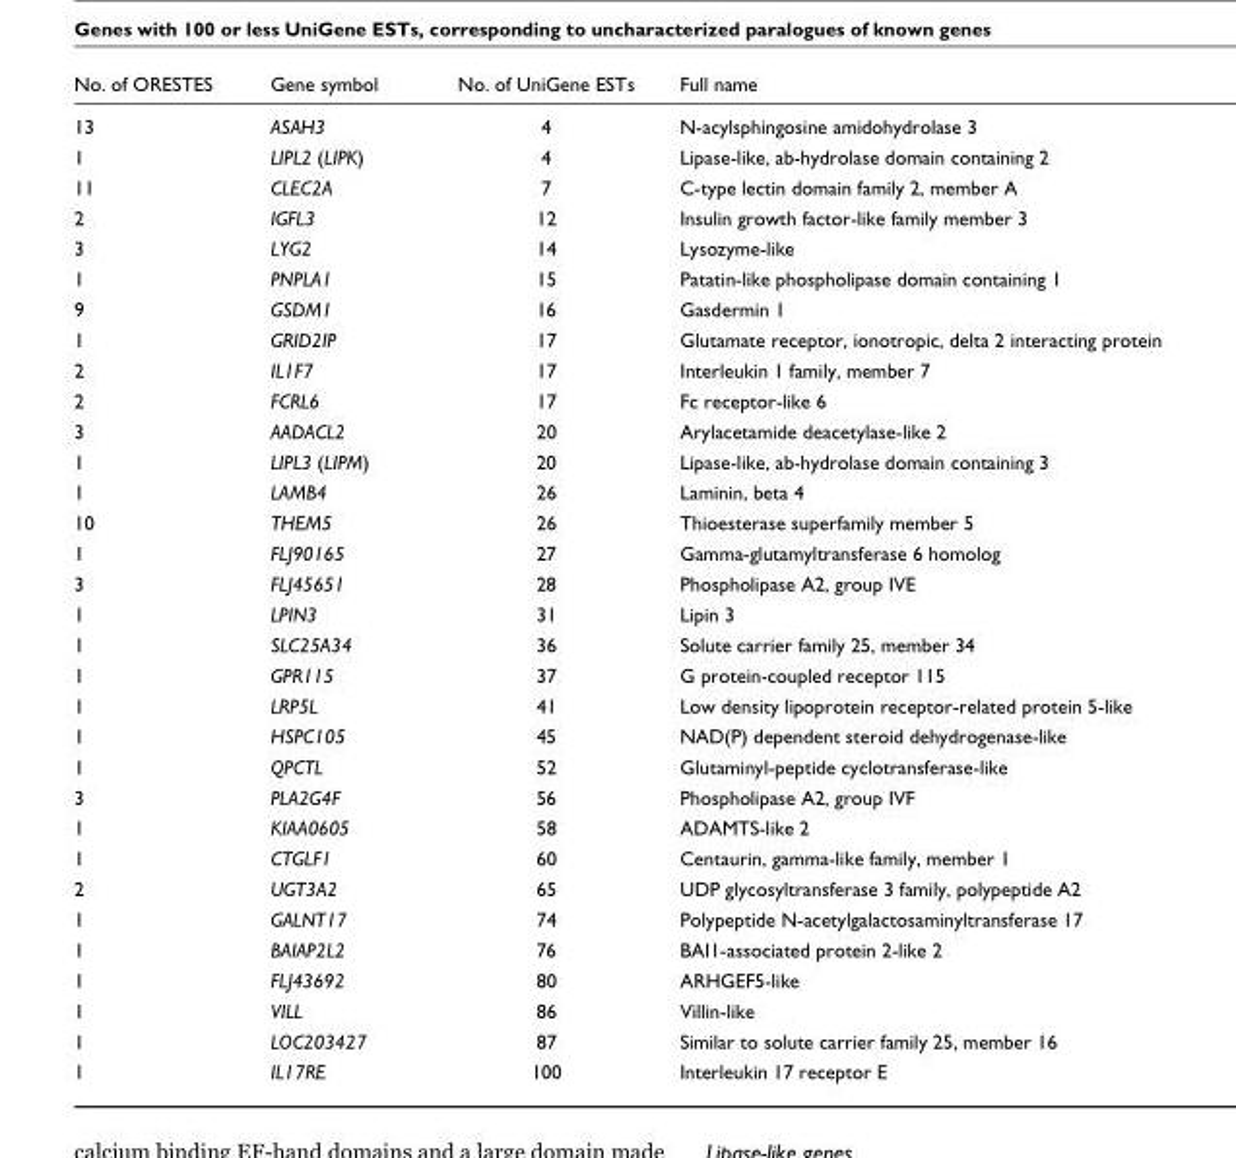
<table><thead><tr><td>No. of ORESTES</td><td>Gene symbol</td><td>No. of UniGene ESTs</td><td>Full name</td></tr></thead><tbody><tr><td>13</td><td>ASAH3</td><td>4</td><td>N-acylsphingosine amidohydrolase 3</td></tr><tr><td>1</td><td>LIPL2 (LIPK)</td><td>4</td><td>Lipase-like, ab-hydrolase domain containing 2</td></tr><tr><td>11</td><td>CLEC2A</td><td>7</td><td>C-type lectin domain family 2, member A</td></tr><tr><td>2</td><td>IGFL3</td><td>12</td><td>Insulin growth factor-like family member 3</td></tr><tr><td>3</td><td>LYG2</td><td>14</td><td>Lysozyme-like</td></tr><tr><td>1</td><td>PNPLA1</td><td>15</td><td>Patatin-like phospholipase domain containing 1</td></tr><tr><td>9</td><td>GSDM1</td><td>16</td><td>Gasdermin 1</td></tr><tr><td>1</td><td>GRID2IP</td><td>17</td><td>Glutamate receptor, ionotropic, delta 2 interacting protein</td></tr><tr><td>2</td><td>IL1F7</td><td>17</td><td>Interleukin 1 family, member 7</td></tr><tr><td>2</td><td>FCRL6</td><td>17</td><td>Fc receptor-like 6</td></tr><tr><td>3</td><td>AADACL2</td><td>20</td><td>Arylacetamide deacetylase-like 2</td></tr><tr><td>1</td><td>LIPL3 (LIPM)</td><td>20</td><td>Lipase-like, ab-hydrolase domain containing 3</td></tr><tr><td>1</td><td>LAMB4</td><td>26</td><td>Laminin, beta 4</td></tr><tr><td>10</td><td>THEM5</td><td>26</td><td>Thioesterase superfamily member 5</td></tr><tr><td>1</td><td>FLJ90165</td><td>27</td><td>Gamma-glutamyltransferase 6 homolog</td></tr><tr><td>3</td><td>FLJ45651</td><td>28</td><td>Phospholipase A2, group IVE</td></tr><tr><td>1</td><td>LPIN3</td><td>31</td><td>Lipin 3</td></tr><tr><td>1</td><td>SLC25A34</td><td>36</td><td>Solute carrier family 25, member 34</td></tr><tr><td>1</td><td>GPR115</td><td>37</td><td>G protein-coupled receptor 115</td></tr><tr><td>1</td><td>LRP5L</td><td>41</td><td>Low density lipoprotein receptor-related protein 5-like</td></tr><tr><td>1</td><td>HSPC105</td><td>45</td><td>NAD(P) dependent steroid dehydrogenase-like</td></tr><tr><td>1</td><td>QPCTL</td><td>52</td><td>Glutaminyl-peptide cyclotransferase-like</td></tr><tr><td>3</td><td>PLA2G4F</td><td>56</td><td>Phospholipase A2, group IVF</td></tr><tr><td>1</td><td>KIAA0605</td><td>58</td><td>ADAMTS-like 2</td></tr><tr><td>1</td><td>CTGLF1</td><td>60</td><td>Centaurin, gamma-like family, member 1</td></tr><tr><td>2</td><td>UGT3A2</td><td>65</td><td>UDP glycosyltransferase 3 family, polypeptide A2</td></tr><tr><td>1</td><td>GALNT17</td><td>74</td><td>Polypeptide N-acetylgalactosaminyltransferase 17</td></tr><tr><td>1</td><td>BAIAP2L2</td><td>76</td><td>BAI1-associated protein 2-like 2</td></tr><tr><td>1</td><td>FLJ43692</td><td>80</td><td>ARHGEF5-like</td></tr><tr><td>1</td><td>VILL</td><td>86</td><td>Villin-like</td></tr><tr><td>1</td><td>LOC203427</td><td>87</td><td>Similar to solute carrier family 25, member 16</td></tr><tr><td>1</td><td>IL17RE</td><td>100</td><td>Interleukin 17 receptor E</td></tr></tbody></table>